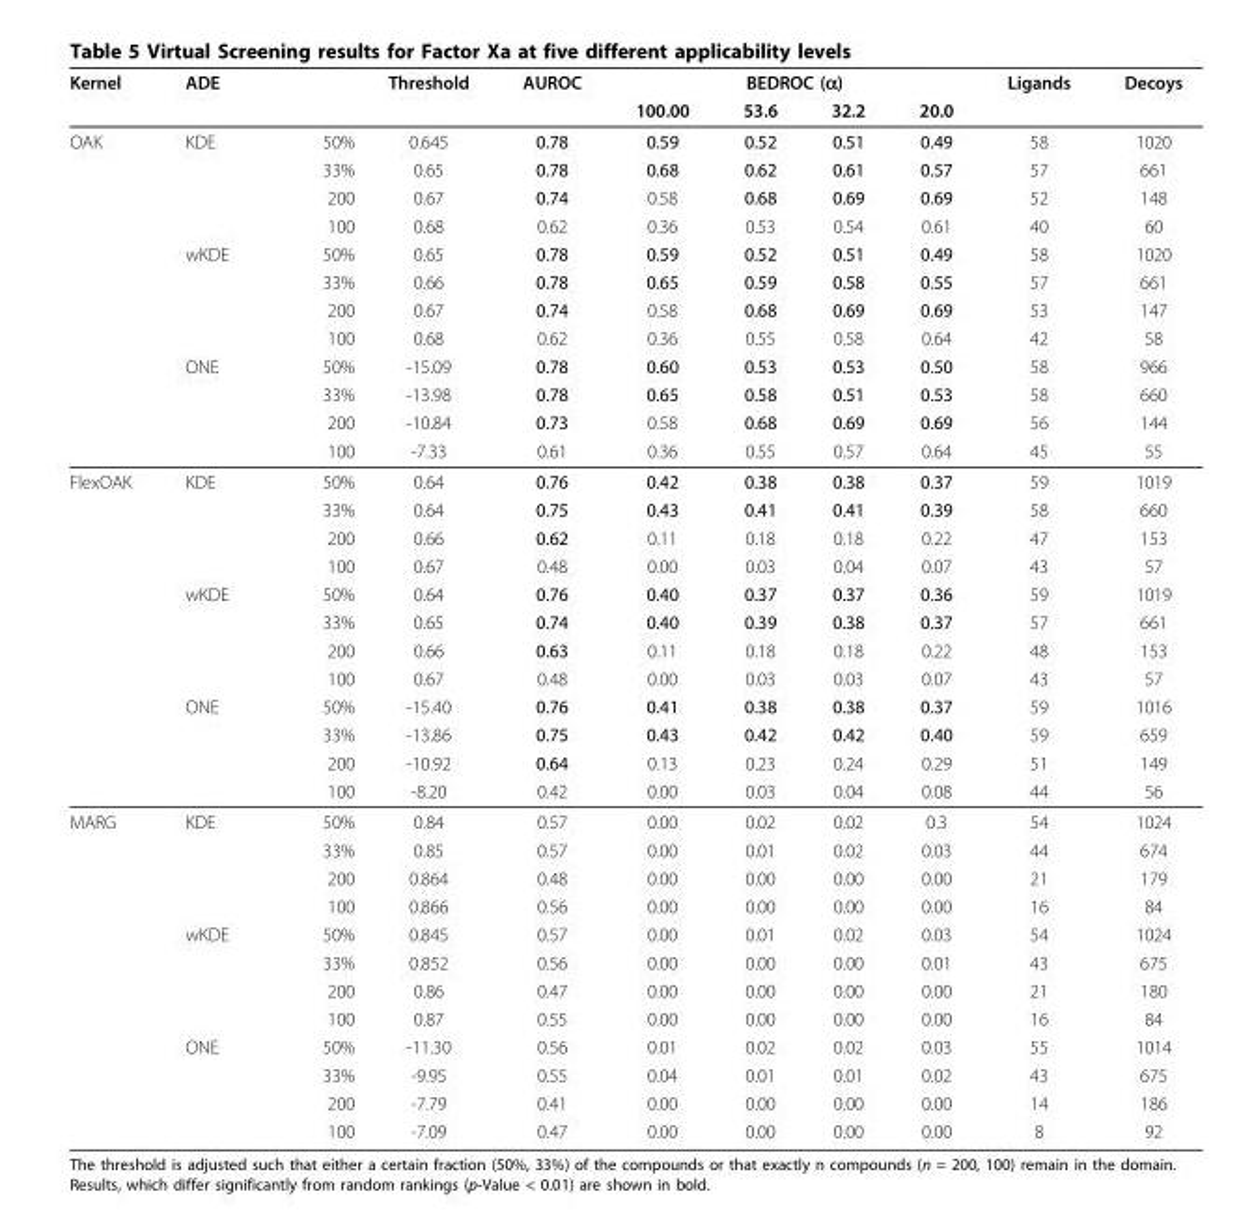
<table><thead><tr><td rowspan="2">Kernel</td><td rowspan="2">ADE</td><td rowspan="2"></td><td rowspan="2">Threshold</td><td rowspan="2">AUROC</td><td colspan="4">BEDROC (α)</td><td rowspan="2">Ligands</td><td rowspan="2">Decoys</td></tr><tr><td>100.00</td><td>53.6</td><td>32.2</td><td>20.0</td></tr></thead><tbody><tr><td rowspan="12">OAK</td><td>KDE</td><td>50%</td><td>0.645</td><td>0.78</td><td>0.59</td><td>0.52</td><td>0.51</td><td>0.49</td><td>58</td><td>1020</td></tr><tr><td></td><td>33%</td><td>0.65</td><td>0.78</td><td>0.68</td><td>0.62</td><td>0.61</td><td>0.57</td><td>57</td><td>661</td></tr><tr><td></td><td>200</td><td>0.67</td><td>0.74</td><td>0.58</td><td>0.68</td><td>0.69</td><td>0.69</td><td>52</td><td>148</td></tr><tr><td></td><td>100</td><td>0.68</td><td>0.62</td><td>0.36</td><td>0.53</td><td>0.54</td><td>0.61</td><td>40</td><td>60</td></tr><tr><td>wKDE</td><td>50%</td><td>0.65</td><td>0.78</td><td>0.59</td><td>0.52</td><td>0.51</td><td>0.49</td><td>58</td><td>1020</td></tr><tr><td></td><td>33%</td><td>0.66</td><td>0.78</td><td>0.65</td><td>0.59</td><td>0.58</td><td>0.55</td><td>57</td><td>661</td></tr><tr><td></td><td>200</td><td>0.67</td><td>0.74</td><td>0.58</td><td>0.68</td><td>0.69</td><td>0.69</td><td>53</td><td>147</td></tr><tr><td></td><td>100</td><td>0.68</td><td>0.62</td><td>0.36</td><td>0.55</td><td>0.58</td><td>0.64</td><td>42</td><td>58</td></tr><tr><td>ONE</td><td>50%</td><td>-15.09</td><td>0.78</td><td>0.60</td><td>0.53</td><td>0.53</td><td>0.50</td><td>58</td><td>966</td></tr><tr><td></td><td>33%</td><td>-13.98</td><td>0.78</td><td>0.65</td><td>0.58</td><td>0.51</td><td>0.53</td><td>58</td><td>660</td></tr><tr><td></td><td>200</td><td>-10.84</td><td>0.73</td><td>0.58</td><td>0.68</td><td>0.69</td><td>0.69</td><td>56</td><td>144</td></tr><tr><td></td><td>100</td><td>-7.33</td><td>0.61</td><td>0.36</td><td>0.55</td><td>0.57</td><td>0.64</td><td>45</td><td>55</td></tr><tr><td rowspan="12">FlexOAK</td><td>KDE</td><td>50%</td><td>0.64</td><td>0.76</td><td>0.42</td><td>0.38</td><td>0.38</td><td>0.37</td><td>59</td><td>1019</td></tr><tr><td></td><td>33%</td><td>0.64</td><td>0.75</td><td>0.43</td><td>0.41</td><td>0.41</td><td>0.39</td><td>58</td><td>660</td></tr><tr><td></td><td>200</td><td>0.66</td><td>0.62</td><td>0.11</td><td>0.18</td><td>0.18</td><td>0.22</td><td>47</td><td>153</td></tr><tr><td></td><td>100</td><td>0.67</td><td>0.48</td><td>0.00</td><td>0.03</td><td>0.04</td><td>0.07</td><td>43</td><td>57</td></tr><tr><td>wKDE</td><td>50%</td><td>0.64</td><td>0.76</td><td>0.40</td><td>0.37</td><td>0.37</td><td>0.36</td><td>59</td><td>1019</td></tr><tr><td></td><td>33%</td><td>0.65</td><td>0.74</td><td>0.40</td><td>0.39</td><td>0.38</td><td>0.37</td><td>57</td><td>661</td></tr><tr><td></td><td>200</td><td>0.66</td><td>0.63</td><td>0.11</td><td>0.18</td><td>0.18</td><td>0.22</td><td>48</td><td>153</td></tr><tr><td></td><td>100</td><td>0.67</td><td>0.48</td><td>0.00</td><td>0.03</td><td>0.03</td><td>0.07</td><td>43</td><td>57</td></tr><tr><td>ONE</td><td>50%</td><td>-15.40</td><td>0.76</td><td>0.41</td><td>0.38</td><td>0.38</td><td>0.37</td><td>59</td><td>1016</td></tr><tr><td></td><td>33%</td><td>-13.86</td><td>0.75</td><td>0.43</td><td>0.42</td><td>0.42</td><td>0.40</td><td>59</td><td>659</td></tr><tr><td></td><td>200</td><td>-10.92</td><td>0.64</td><td>0.13</td><td>0.23</td><td>0.24</td><td>0.29</td><td>51</td><td>149</td></tr><tr><td></td><td>100</td><td>-8.20</td><td>0.42</td><td>0.00</td><td>0.03</td><td>0.04</td><td>0.08</td><td>44</td><td>56</td></tr><tr><td rowspan="12">MARG</td><td>KDE</td><td>50%</td><td>0.84</td><td>0.57</td><td>0.00</td><td>0.02</td><td>0.02</td><td>0.3</td><td>54</td><td>1024</td></tr><tr><td></td><td>33%</td><td>0.85</td><td>0.57</td><td>0.00</td><td>0.01</td><td>0.02</td><td>0.03</td><td>44</td><td>674</td></tr><tr><td></td><td>200</td><td>0.864</td><td>0.48</td><td>0.00</td><td>0.00</td><td>0.00</td><td>0.00</td><td>21</td><td>179</td></tr><tr><td></td><td>100</td><td>0.866</td><td>0.56</td><td>0.00</td><td>0.00</td><td>0.00</td><td>0.00</td><td>16</td><td>84</td></tr><tr><td>wKDE</td><td>50%</td><td>0.845</td><td>0.57</td><td>0.00</td><td>0.01</td><td>0.02</td><td>0.03</td><td>54</td><td>1024</td></tr><tr><td></td><td>33%</td><td>0.852</td><td>0.56</td><td>0.00</td><td>0.00</td><td>0.00</td><td>0.01</td><td>43</td><td>675</td></tr><tr><td></td><td>200</td><td>0.86</td><td>0.47</td><td>0.00</td><td>0.00</td><td>0.00</td><td>0.00</td><td>21</td><td>180</td></tr><tr><td></td><td>100</td><td>0.87</td><td>0.55</td><td>0.00</td><td>0.00</td><td>0.00</td><td>0.00</td><td>16</td><td>84</td></tr><tr><td>ONE</td><td>50%</td><td>-11.30</td><td>0.56</td><td>0.01</td><td>0.02</td><td>0.02</td><td>0.03</td><td>55</td><td>1014</td></tr><tr><td></td><td>33%</td><td>-9.95</td><td>0.55</td><td>0.04</td><td>0.01</td><td>0.01</td><td>0.02</td><td>43</td><td>675</td></tr><tr><td></td><td>200</td><td>-7.79</td><td>0.41</td><td>0.00</td><td>0.00</td><td>0.00</td><td>0.00</td><td>14</td><td>186</td></tr><tr><td></td><td>100</td><td>-7.09</td><td>0.47</td><td>0.00</td><td>0.00</td><td>0.00</td><td>0.00</td><td>8</td><td>92</td></tr></tbody></table>